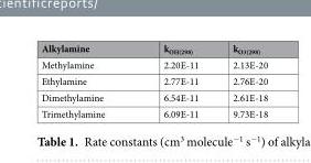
<table><thead><tr><td>Alkylamine</td><td>k<sub>OH(298)</sub></td><td>k<sub>O3(298)</sub></td></tr></thead><tbody><tr><td>Methylamine</td><td>2.20E-11</td><td>2.13E-20</td></tr><tr><td>Ethylamine</td><td>2.77E-11</td><td>2.76E-20</td></tr><tr><td>Dimethylamine</td><td>6.54E-11</td><td>2.61E-18</td></tr><tr><td>Trimethylamine</td><td>6.09E-11</td><td>9.73E-18</td></tr></tbody></table>